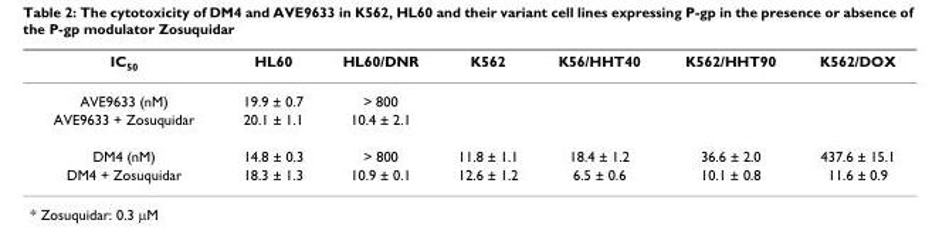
<table><thead><tr><td>IC<sub>50</sub></td><td>HL60</td><td>HL60/DNR</td><td>K562</td><td>K56/HHT40</td><td>K562/HHT90</td><td>K562/DOX</td></tr></thead><tbody><tr><td>AVE9633 (nM)</td><td>19.9 ± 0.7</td><td>&gt; 800</td><td></td><td></td><td></td><td></td></tr><tr><td>AVE9633 + Zosuquidar</td><td>20.1 ± 1.1</td><td>10.4 ± 2.1</td><td></td><td></td><td></td><td></td></tr><tr><td>DM4 (nM)</td><td>14.8 ± 0.3</td><td>&gt; 800</td><td>11.8 ± 1.1</td><td>18.4 ± 1.2</td><td>36.6 ± 2.0</td><td>437.6 ± 15.1</td></tr><tr><td>DM4 + Zosuquidar</td><td>18.3 ± 1.3</td><td>10.9 ± 0.1</td><td>12.6 ± 1.2</td><td>6.5 ± 0.6</td><td>10.1 ± 0.8</td><td>11.6 ± 0.9</td></tr></tbody></table>